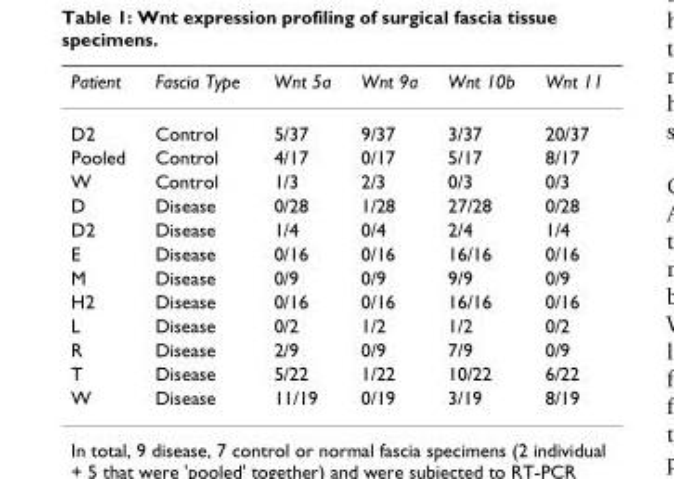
<table><thead><tr><td>Patient</td><td>Fascia Type</td><td>Wnt 5a</td><td>Wnt 9a</td><td>Wnt 10b</td><td>Wnt 11</td></tr></thead><tbody><tr><td>D2</td><td>Control</td><td>5/37</td><td>9/37</td><td>3/37</td><td>20/37</td></tr><tr><td>Pooled</td><td>Control</td><td>4/17</td><td>0/17</td><td>5/17</td><td>8/17</td></tr><tr><td>W</td><td>Control</td><td>1/3</td><td>2/3</td><td>0/3</td><td>0/3</td></tr><tr><td>D</td><td>Disease</td><td>0/28</td><td>1/28</td><td>27/28</td><td>0/28</td></tr><tr><td>D2</td><td>Disease</td><td>1/4</td><td>0/4</td><td>2/4</td><td>1/4</td></tr><tr><td>E</td><td>Disease</td><td>0/16</td><td>0/16</td><td>16/16</td><td>0/16</td></tr><tr><td>M</td><td>Disease</td><td>0/9</td><td>0/9</td><td>9/9</td><td>0/9</td></tr><tr><td>H2</td><td>Disease</td><td>0/16</td><td>0/16</td><td>16/16</td><td>0/16</td></tr><tr><td>L</td><td>Disease</td><td>0/2</td><td>1/2</td><td>1/2</td><td>0/2</td></tr><tr><td>R</td><td>Disease</td><td>2/9</td><td>0/9</td><td>7/9</td><td>0/9</td></tr><tr><td>T</td><td>Disease</td><td>5/22</td><td>1/22</td><td>10/22</td><td>6/22</td></tr><tr><td>W</td><td>Disease</td><td>11/19</td><td>0/19</td><td>3/19</td><td>8/19</td></tr></tbody></table>